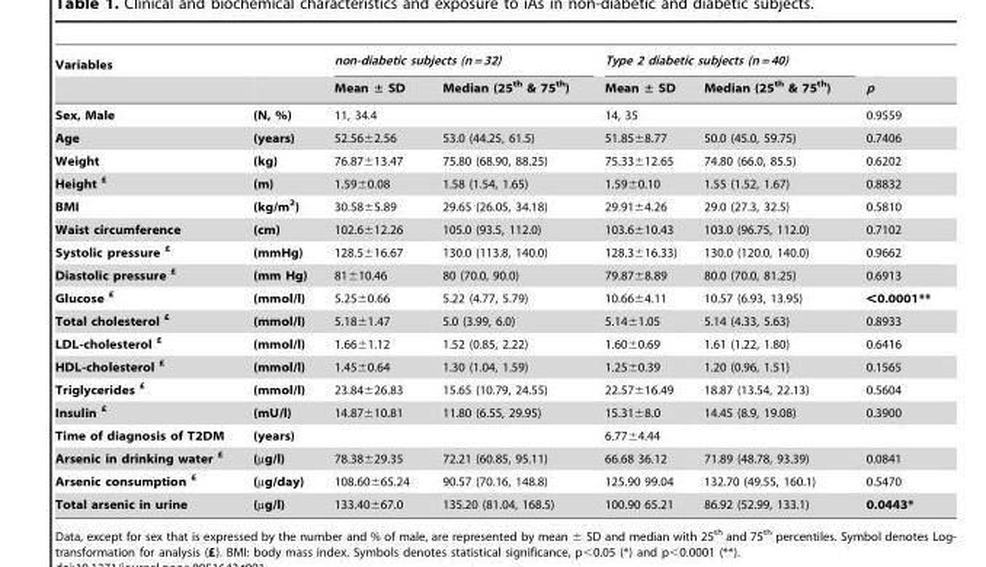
<table><thead><tr><td colspan="2">Variables</td><td colspan="2">non-diabetic subjects (n = 32)</td><td colspan="2">Type 2 diabetic subjects (n = 40)</td><td rowspan="2">p</td></tr><tr><td></td><td></td><td>Mean ± SD</td><td>Median (25<sup>th</sup> &amp; 75<sup>th</sup>)</td><td>Mean ± SD</td><td>Median (25<sup>th</sup> &amp; 75<sup>th</sup>)</td></tr></thead><tbody><tr><td>Sex, Male</td><td>(N, %)</td><td>11, 34.4</td><td></td><td>14, 35</td><td></td><td>0.9559</td></tr><tr><td>Age</td><td>(years)</td><td>52.56±2.56</td><td>53.0 (44.25, 61.5)</td><td>51.85±8.77</td><td>50.0 (45.0, 59.75)</td><td>0.7406</td></tr><tr><td>Weight</td><td>(kg)</td><td>76.87±13.47</td><td>75.80 (68.90, 88.25)</td><td>75.33±12.65</td><td>74.80 (66.0, 85.5)</td><td>0.6202</td></tr><tr><td>Height <sup>£</sup></td><td>(m)</td><td>1.59±0.08</td><td>1.58 (1.54, 1.65)</td><td>1.59±0.10</td><td>1.55 (1.52, 1.67)</td><td>0.8832</td></tr><tr><td>BMI</td><td>(kg/m<sup>2</sup>)</td><td>30.58±5.89</td><td>29.65 (26.05, 34.18)</td><td>29.91±4.26</td><td>29.0 (27.3, 32.5)</td><td>0.5810</td></tr><tr><td>Waist circumference</td><td>(cm)</td><td>102.6±12.26</td><td>105.0 (93.5, 112.0)</td><td>103.6±10.43</td><td>103.0 (96.75, 112.0)</td><td>0.7102</td></tr><tr><td>Systolic pressure <sup>£</sup></td><td>(mmHg)</td><td>128.5±16.67</td><td>130.0 (113.8, 140.0)</td><td>128.3±16.33)</td><td>130.0 (120.0, 140.0)</td><td>0.9662</td></tr><tr><td>Diastolic pressure <sup>£</sup></td><td>(mm Hg)</td><td>81±10.46</td><td>80 (70.0, 90.0)</td><td>79.87±8.89</td><td>80.0 (70.0, 81.25)</td><td>0.6913</td></tr><tr><td>Glucose <sup>£</sup></td><td>(mmol/l)</td><td>5.25±0.66</td><td>5.22 (4.77, 5.79)</td><td>10.66±4.11</td><td>10.57 (6.93, 13.95)</td><td>&lt;0.0001**</td></tr><tr><td>Total cholesterol <sup>£</sup></td><td>(mmol/l)</td><td>5.18±1.47</td><td>5.0 (3.99, 6.0)</td><td>5.14±1.05</td><td>5.14 (4.33, 5.63)</td><td>0.8933</td></tr><tr><td>LDL-cholesterol <sup>£</sup></td><td>(mmol/l)</td><td>1.66±1.12</td><td>1.52 (0.85, 2.22)</td><td>1.60±0.69</td><td>1.61 (1.22, 1.80)</td><td>0.6416</td></tr><tr><td>HDL-cholesterol <sup>£</sup></td><td>(mmol/l)</td><td>1.45±0.64</td><td>1.30 (1.04, 1.59)</td><td>1.25±0.39</td><td>1.20 (0.96, 1.51)</td><td>0.1565</td></tr><tr><td>Triglycerides <sup>£</sup></td><td>(mmol/l)</td><td>23.84±26.83</td><td>15.65 (10.79, 24.55)</td><td>22.57±16.49</td><td>18.87 (13.54, 22.13)</td><td>0.5604</td></tr><tr><td>Insulin <sup>£</sup></td><td>(mU/l)</td><td>14.87±10.81</td><td>11.80 (6.55, 29.95)</td><td>15.31±8.0</td><td>14.45 (8.9, 19.08)</td><td>0.3900</td></tr><tr><td>Time of diagnosis of T2DM</td><td>(years)</td><td></td><td></td><td>6.77±4.44</td><td></td><td></td></tr><tr><td>Arsenic in drinking water <sup>£</sup></td><td>(µg/l)</td><td>78.38±29.35</td><td>72.21 (60.85, 95.11)</td><td>66.68 36.12</td><td>71.89 (48.78, 93.39)</td><td>0.0841</td></tr><tr><td>Arsenic consumption <sup>£</sup></td><td>(µg/day)</td><td>108.60±65.24</td><td>90.57 (70.16, 148.8)</td><td>125.90 99.04</td><td>132.70 (49.55, 160.1)</td><td>0.5470</td></tr><tr><td>Total arsenic in urine</td><td>(µg/l)</td><td>133.40±67.0</td><td>135.20 (81.04, 168.5)</td><td>100.90 65.21</td><td>86.92 (52.99, 133.1)</td><td>0.0443*</td></tr></tbody></table>